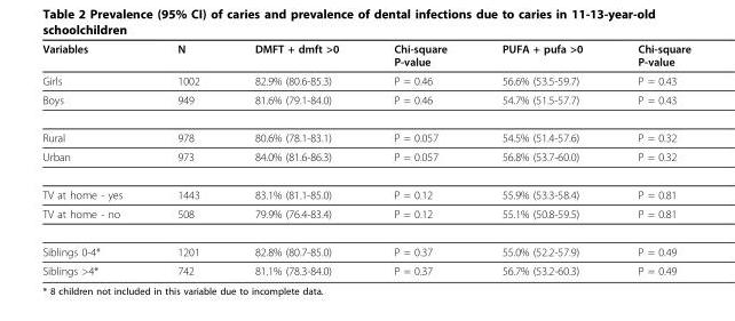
<table><thead><tr><td>Variables</td><td>N</td><td>DMFT + dmft &gt;0</td><td>Chi-square P-value</td><td>PUFA + pufa &gt;0</td><td>Chi-square P-value</td></tr></thead><tbody><tr><td>Girls</td><td>1002</td><td>82.9% (80.6-85.3)</td><td>P = 0.46</td><td>56.6% (53.5-59.7)</td><td>P = 0.43</td></tr><tr><td>Boys</td><td>949</td><td>81.6% (79.1-84.0)</td><td>P = 0.46</td><td>54.7% (51.5-57.7)</td><td>P = 0.43</td></tr><tr><td>Rural</td><td>978</td><td>80.6% (78.1-83.1)</td><td>P = 0.057</td><td>54.5% (51.4-57.6)</td><td>P = 0.32</td></tr><tr><td>Urban</td><td>973</td><td>84.0% (81.6-86.3)</td><td>P = 0.057</td><td>56.8% (53.7-60.0)</td><td>P = 0.32</td></tr><tr><td>TV at home - yes</td><td>1443</td><td>83.1% (81.1-85.0)</td><td>P = 0.12</td><td>55.9% (53.3-58.4)</td><td>P = 0.81</td></tr><tr><td>TV at home - no</td><td>508</td><td>79.9% (76.4-83.4)</td><td>P = 0.12</td><td>55.1% (50.8-59.5)</td><td>P = 0.81</td></tr><tr><td>Siblings 0-4*</td><td>1201</td><td>82.8% (80.7-85.0)</td><td>P = 0.37</td><td>55.0% (52.2-57.9)</td><td>P = 0.49</td></tr><tr><td>Siblings &gt;4*</td><td>742</td><td>81.1% (78.3-84.0)</td><td>P = 0.37</td><td>56.7% (53.2-60.3)</td><td>P = 0.49</td></tr></tbody></table>